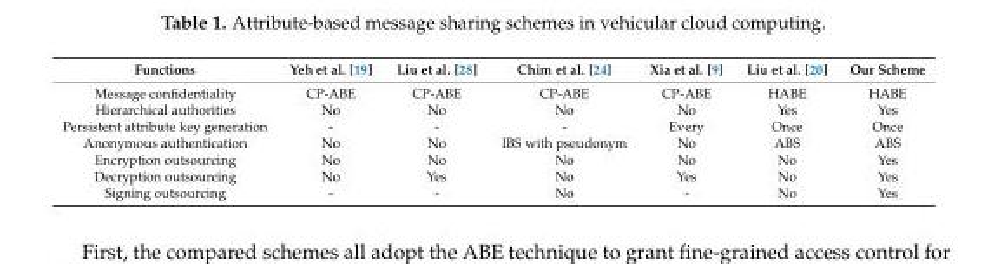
<table><thead><tr><td>Functions</td><td>Yeh et al. [19]</td><td>Liu et al. [28]</td><td>Chim et al. [24]</td><td>Xia et al. [9]</td><td>Liu et al. [20]</td><td>Our Scheme</td></tr></thead><tbody><tr><td>Message confidentiality</td><td>CP-ABE</td><td>CP-ABE</td><td>CP-ABE</td><td>CP-ABE</td><td>HABE</td><td>HABE</td></tr><tr><td>Hierarchical authorities</td><td>No</td><td>No</td><td>No</td><td>No</td><td>Yes</td><td>Yes</td></tr><tr><td>Persistent attribute key generation</td><td>-</td><td>-</td><td>-</td><td>Every</td><td>Once</td><td>Once</td></tr><tr><td>Anonymous authentication</td><td>No</td><td>No</td><td>IBS with pseudonym</td><td>No</td><td>ABS</td><td>ABS</td></tr><tr><td>Encryption outsourcing</td><td>No</td><td>No</td><td>No</td><td>No</td><td>No</td><td>Yes</td></tr><tr><td>Decryption outsourcing</td><td>No</td><td>Yes</td><td>No</td><td>Yes</td><td>No</td><td>Yes</td></tr><tr><td>Signing outsourcing</td><td>-</td><td>-</td><td>No</td><td>-</td><td>No</td><td>Yes</td></tr></tbody></table>